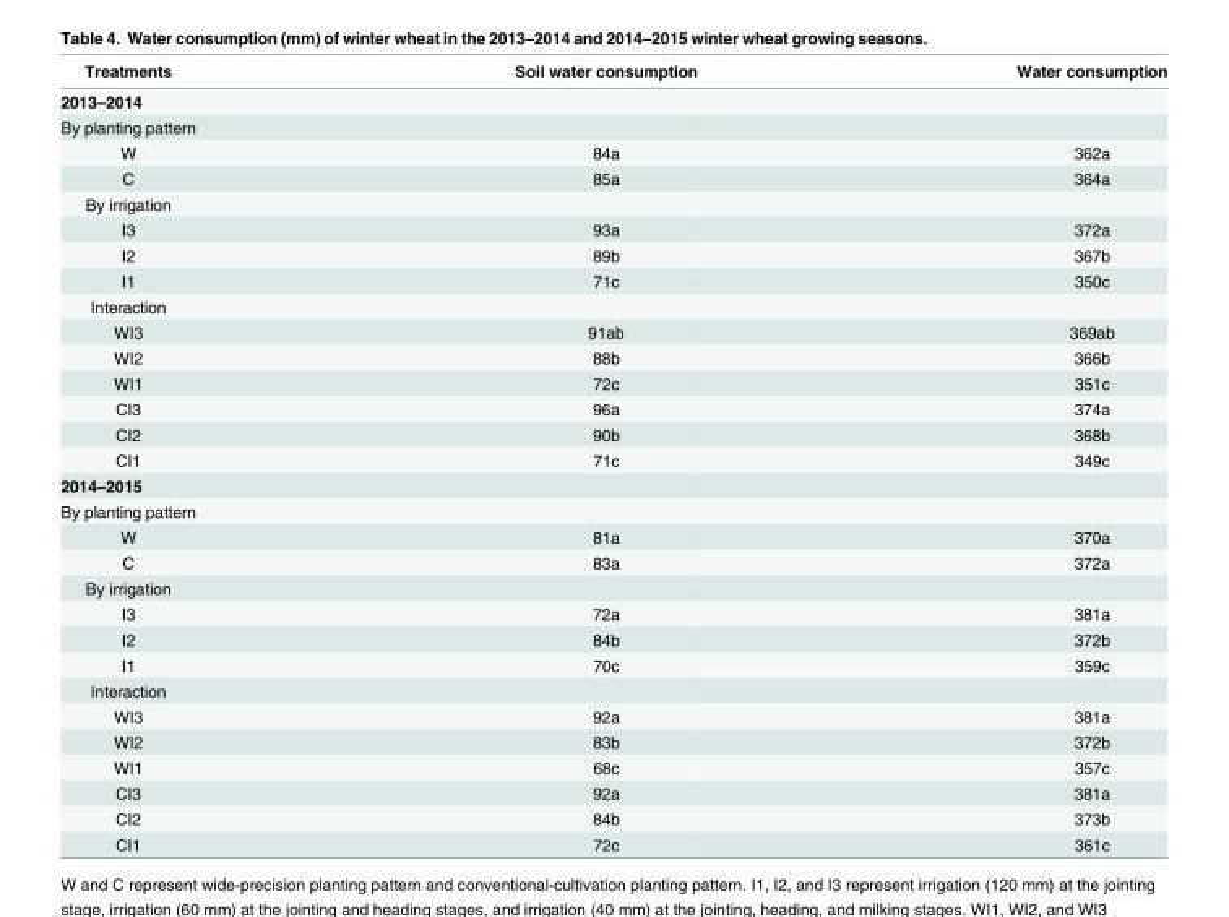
<table><thead><tr><td>Treatments</td><td>Soil water consumption</td><td>Water consumption</td></tr></thead><tbody><tr><td colspan="3">2013–2014</td></tr><tr><td colspan="3">By planting pattern</td></tr><tr><td>W</td><td>84a</td><td>362a</td></tr><tr><td>C</td><td>85a</td><td>364a</td></tr><tr><td colspan="3">By irrigation</td></tr><tr><td>I3</td><td>93a</td><td>372a</td></tr><tr><td>I2</td><td>89b</td><td>367b</td></tr><tr><td>I1</td><td>71c</td><td>350c</td></tr><tr><td colspan="3">Interaction</td></tr><tr><td>WI3</td><td>91ab</td><td>369ab</td></tr><tr><td>WI2</td><td>88b</td><td>366b</td></tr><tr><td>WI1</td><td>72c</td><td>351c</td></tr><tr><td>CI3</td><td>96a</td><td>374a</td></tr><tr><td>CI2</td><td>90b</td><td>368b</td></tr><tr><td>CI1</td><td>71c</td><td>349c</td></tr><tr><td colspan="3">2014–2015</td></tr><tr><td colspan="3">By planting pattern</td></tr><tr><td>W</td><td>81a</td><td>370a</td></tr><tr><td>C</td><td>83a</td><td>372a</td></tr><tr><td colspan="3">By irrigation</td></tr><tr><td>I3</td><td>72a</td><td>381a</td></tr><tr><td>I2</td><td>84b</td><td>372b</td></tr><tr><td>I1</td><td>70c</td><td>359c</td></tr><tr><td colspan="3">Interaction</td></tr><tr><td>WI3</td><td>92a</td><td>381a</td></tr><tr><td>WI2</td><td>83b</td><td>372b</td></tr><tr><td>WI1</td><td>68c</td><td>357c</td></tr><tr><td>CI3</td><td>92a</td><td>381a</td></tr><tr><td>CI2</td><td>84b</td><td>373b</td></tr><tr><td>CI1</td><td>72c</td><td>361c</td></tr></tbody></table>